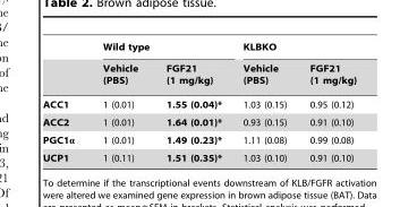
<table><thead><tr><td rowspan="2"></td><td colspan="2">Wild type</td><td colspan="2">KLBKO</td></tr><tr><td>Vehicle (PBS)</td><td>FGF21 (1 mg/kg)</td><td>Vehicle (PBS)</td><td>FGF21 (1 mg/kg)</td></tr></thead><tbody><tr><td>ACC1</td><td>1 (0.01)</td><td>1.55 (0.04)*</td><td>1.03 (0.15)</td><td>0.95 (0.12)</td></tr><tr><td>ACC2</td><td>1 (0.01)</td><td>1.64 (0.01)*</td><td>0.93 (0.15)</td><td>0.91 (0.10)</td></tr><tr><td>PGC1α</td><td>1 (0.01)</td><td>1.49 (0.23)*</td><td>1.11 (0.08)</td><td>0.99 (0.08)</td></tr><tr><td>UCP1</td><td>1 (0.11)</td><td>1.51 (0.35)*</td><td>1.03 (0.10)</td><td>0.91 (0.10)</td></tr></tbody></table>